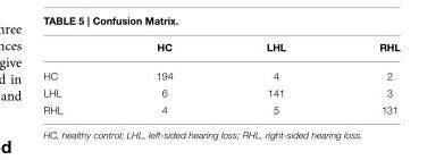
<table><thead><tr><td></td><td>HC</td><td>LHL</td><td>RHL</td></tr></thead><tbody><tr><td>HC</td><td>194</td><td>4</td><td>2</td></tr><tr><td>LHL</td><td>6</td><td>141</td><td>3</td></tr><tr><td>RHL</td><td>4</td><td>5</td><td>131</td></tr></tbody></table>